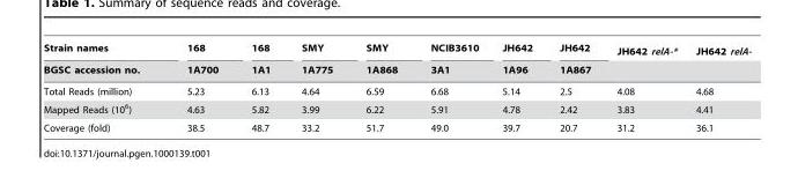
<table><thead><tr><td rowspan="2">Strain names BGSC accession no.</td><td rowspan="2">168 1A700</td><td rowspan="2">168 1A1</td><td rowspan="2">SMY 1A775</td><td rowspan="2">SMY 1A868</td><td rowspan="2">NCIB3610 3A1</td><td rowspan="2">JH642 1A96</td><td rowspan="2">JH642 1A867</td><td rowspan="2">JH642 relA-*</td><td rowspan="2">JH642 relA-</td></tr><tr></tr></thead><tbody><tr><td>Total Reads (million)</td><td>5.23</td><td>6.13</td><td>4.64</td><td>6.59</td><td>6.68</td><td>5.14</td><td>2.5</td><td>4.08</td><td>4.68</td></tr><tr><td>Mapped Reads (10<sup>6</sup>)</td><td>4.63</td><td>5.82</td><td>3.99</td><td>6.22</td><td>5.91</td><td>4.78</td><td>2.42</td><td>3.83</td><td>4.41</td></tr><tr><td>Coverage (fold)</td><td>38.5</td><td>48.7</td><td>33.2</td><td>51.7</td><td>49.0</td><td>39.7</td><td>20.7</td><td>31.2</td><td>36.1</td></tr></tbody></table>